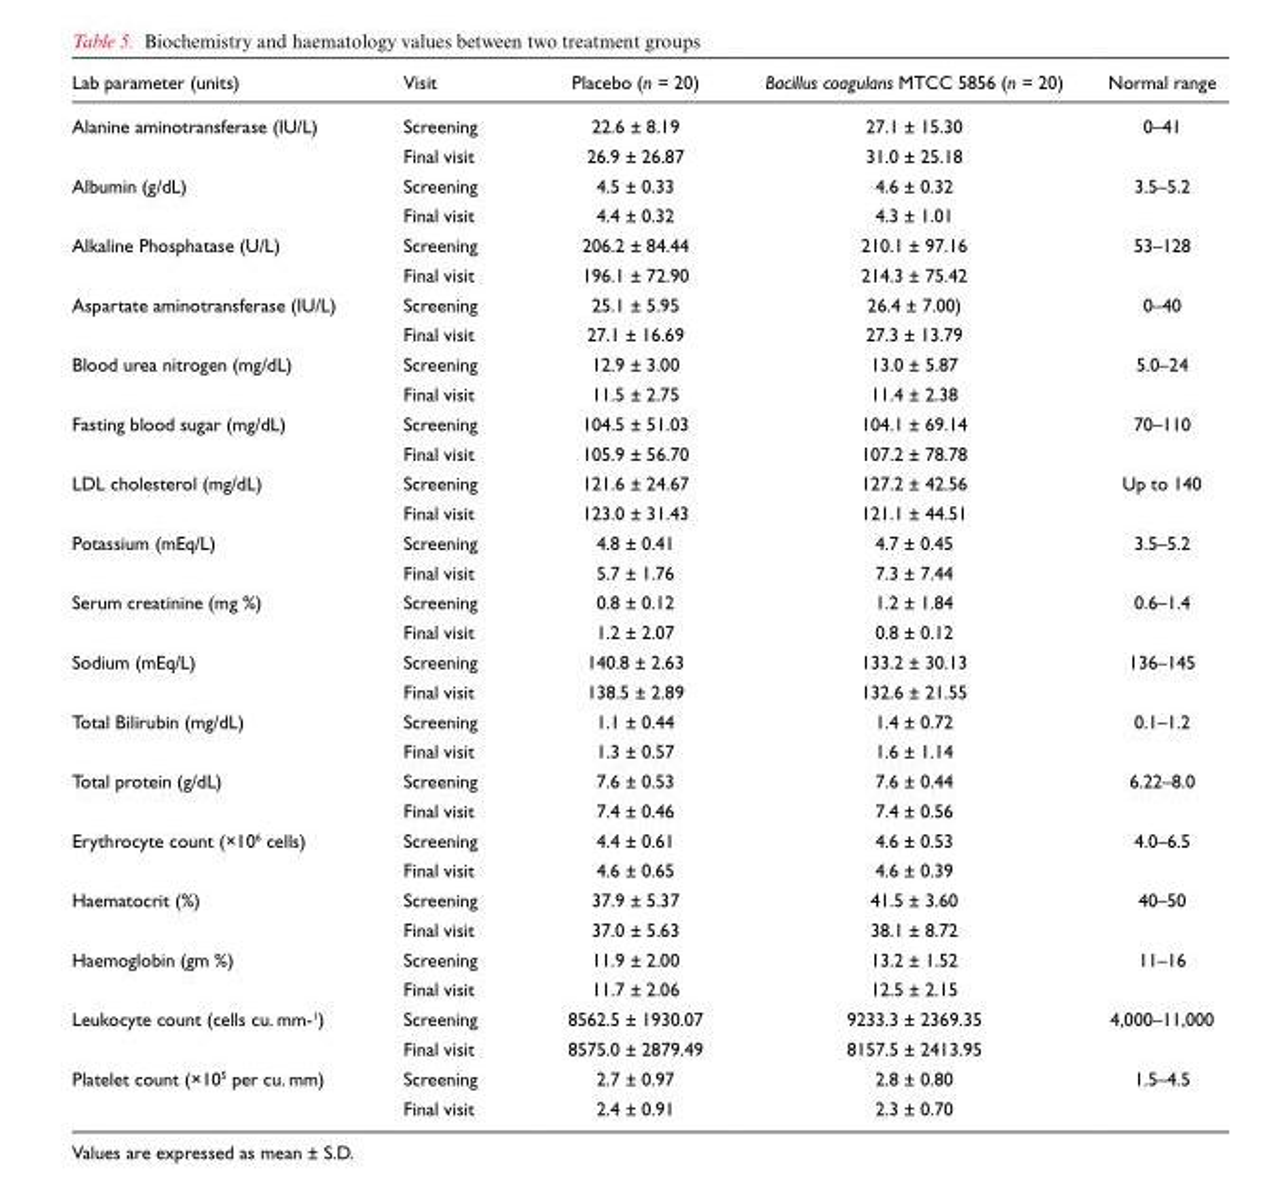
<table><thead><tr><td>Lab parameter (units)</td><td>Visit</td><td>Placebo (n = 20)</td><td>Bacillus coagulans MTCC 5856 (n = 20)</td><td>Normal range</td></tr></thead><tbody><tr><td rowspan="2">Alanine aminotransferase (IU/L)</td><td>Screening</td><td>22.6 ± 8.19</td><td>27.1 ± 15.30</td><td>0–41</td></tr><tr><td>Final visit</td><td>26.9 ± 26.87</td><td>31.0 ± 25.18</td><td></td></tr><tr><td rowspan="2">Albumin (g/dL)</td><td>Screening</td><td>4.5 ± 0.33</td><td>4.6 ± 0.32</td><td>3.5–5.2</td></tr><tr><td>Final visit</td><td>4.4 ± 0.32</td><td>4.3 ± 1.01</td><td></td></tr><tr><td rowspan="2">Alkaline Phosphatase (U/L)</td><td>Screening</td><td>206.2 ± 84.44</td><td>210.1 ± 97.16</td><td>53–128</td></tr><tr><td>Final visit</td><td>196.1 ± 72.90</td><td>214.3 ± 75.42</td><td></td></tr><tr><td rowspan="2">Aspartate aminotransferase (IU/L)</td><td>Screening</td><td>25.1 ± 5.95</td><td>26.4 ± 7.00)</td><td>0–40</td></tr><tr><td>Final visit</td><td>27.1 ± 16.69</td><td>27.3 ± 13.79</td><td></td></tr><tr><td rowspan="2">Blood urea nitrogen (mg/dL)</td><td>Screening</td><td>12.9 ± 3.00</td><td>13.0 ± 5.87</td><td>5.0–24</td></tr><tr><td>Final visit</td><td>11.5 ± 2.75</td><td>11.4 ± 2.38</td><td></td></tr><tr><td rowspan="2">Fasting blood sugar (mg/dL)</td><td>Screening</td><td>104.5 ± 51.03</td><td>104.1 ± 69.14</td><td>70–110</td></tr><tr><td>Final visit</td><td>105.9 ± 56.70</td><td>107.2 ± 78.78</td><td></td></tr><tr><td rowspan="2">LDL cholesterol (mg/dL)</td><td>Screening</td><td>121.6 ± 24.67</td><td>127.2 ± 42.56</td><td>Up to 140</td></tr><tr><td>Final visit</td><td>123.0 ± 31.43</td><td>121.1 ± 44.51</td><td></td></tr><tr><td rowspan="2">Potassium (mEq/L)</td><td>Screening</td><td>4.8 ± 0.41</td><td>4.7 ± 0.45</td><td>3.5–5.2</td></tr><tr><td>Final visit</td><td>5.7 ± 1.76</td><td>7.3 ± 7.44</td><td></td></tr><tr><td rowspan="2">Serum creatinine (mg %)</td><td>Screening</td><td>0.8 ± 0.12</td><td>1.2 ± 1.84</td><td>0.6–1.4</td></tr><tr><td>Final visit</td><td>1.2 ± 2.07</td><td>0.8 ± 0.12</td><td></td></tr><tr><td rowspan="2">Sodium (mEq/L)</td><td>Screening</td><td>140.8 ± 2.63</td><td>133.2 ± 30.13</td><td>136–145</td></tr><tr><td>Final visit</td><td>138.5 ± 2.89</td><td>132.6 ± 21.55</td><td></td></tr><tr><td rowspan="2">Total Bilirubin (mg/dL)</td><td>Screening</td><td>1.1 ± 0.44</td><td>1.4 ± 0.72</td><td>0.1–1.2</td></tr><tr><td>Final visit</td><td>1.3 ± 0.57</td><td>1.6 ± 1.14</td><td></td></tr><tr><td rowspan="2">Total protein (g/dL)</td><td>Screening</td><td>7.6 ± 0.53</td><td>7.6 ± 0.44</td><td>6.22–8.0</td></tr><tr><td>Final visit</td><td>7.4 ± 0.46</td><td>7.4 ± 0.56</td><td></td></tr><tr><td rowspan="2">Erythrocyte count (×10<sup>6</sup> cells)</td><td>Screening</td><td>4.4 ± 0.61</td><td>4.6 ± 0.53</td><td>4.0–6.5</td></tr><tr><td>Final visit</td><td>4.6 ± 0.65</td><td>4.6 ± 0.39</td><td></td></tr><tr><td rowspan="2">Haematocrit (%)</td><td>Screening</td><td>37.9 ± 5.37</td><td>41.5 ± 3.60</td><td>40–50</td></tr><tr><td>Final visit</td><td>37.0 ± 5.63</td><td>38.1 ± 8.72</td><td></td></tr><tr><td rowspan="2">Haemoglobin (gm %)</td><td>Screening</td><td>11.9 ± 2.00</td><td>13.2 ± 1.52</td><td>11–16</td></tr><tr><td>Final visit</td><td>11.7 ± 2.06</td><td>12.5 ± 2.15</td><td></td></tr><tr><td rowspan="2">Leukocyte count (cells cu. mm-<sup>1</sup>)</td><td>Screening</td><td>8562.5 ± 1930.07</td><td>9233.3 ± 2369.35</td><td>4,000–11,000</td></tr><tr><td>Final visit</td><td>8575.0 ± 2879.49</td><td>8157.5 ± 2413.95</td><td></td></tr><tr><td rowspan="2">Platelet count (×10<sup>5</sup> per cu. mm)</td><td>Screening</td><td>2.7 ± 0.97</td><td>2.8 ± 0.80</td><td>1.5–4.5</td></tr><tr><td>Final visit</td><td>2.4 ± 0.91</td><td>2.3 ± 0.70</td><td></td></tr></tbody></table>